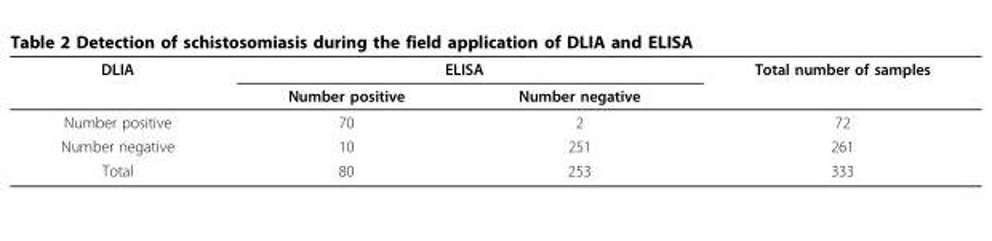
<table><thead><tr><td rowspan="2">DLIA</td><td colspan="2">ELISA</td><td rowspan="2">Total number of samples</td></tr><tr><td>Number positive</td><td>Number negative</td></tr></thead><tbody><tr><td>Number positive</td><td>70</td><td>2</td><td>72</td></tr><tr><td>Number negative</td><td>10</td><td>251</td><td>261</td></tr><tr><td>Total</td><td>80</td><td>253</td><td>333</td></tr></tbody></table>